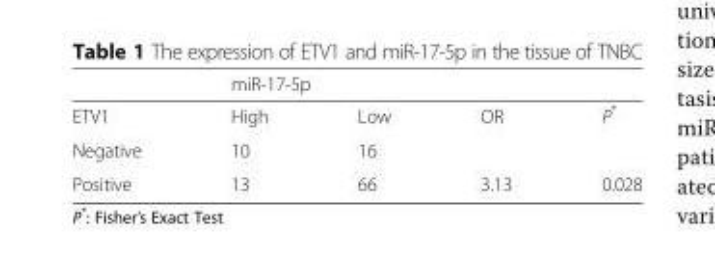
<table><thead><tr><td rowspan="2">ETV1</td><td colspan="4">miR-17-5p</td></tr><tr><td>High</td><td>Low</td><td>OR</td><td>P*</td></tr></thead><tbody><tr><td>Negative</td><td>10</td><td>16</td><td></td><td></td></tr><tr><td>Positive</td><td>13</td><td>66</td><td>3.13</td><td>0.028</td></tr></tbody></table>